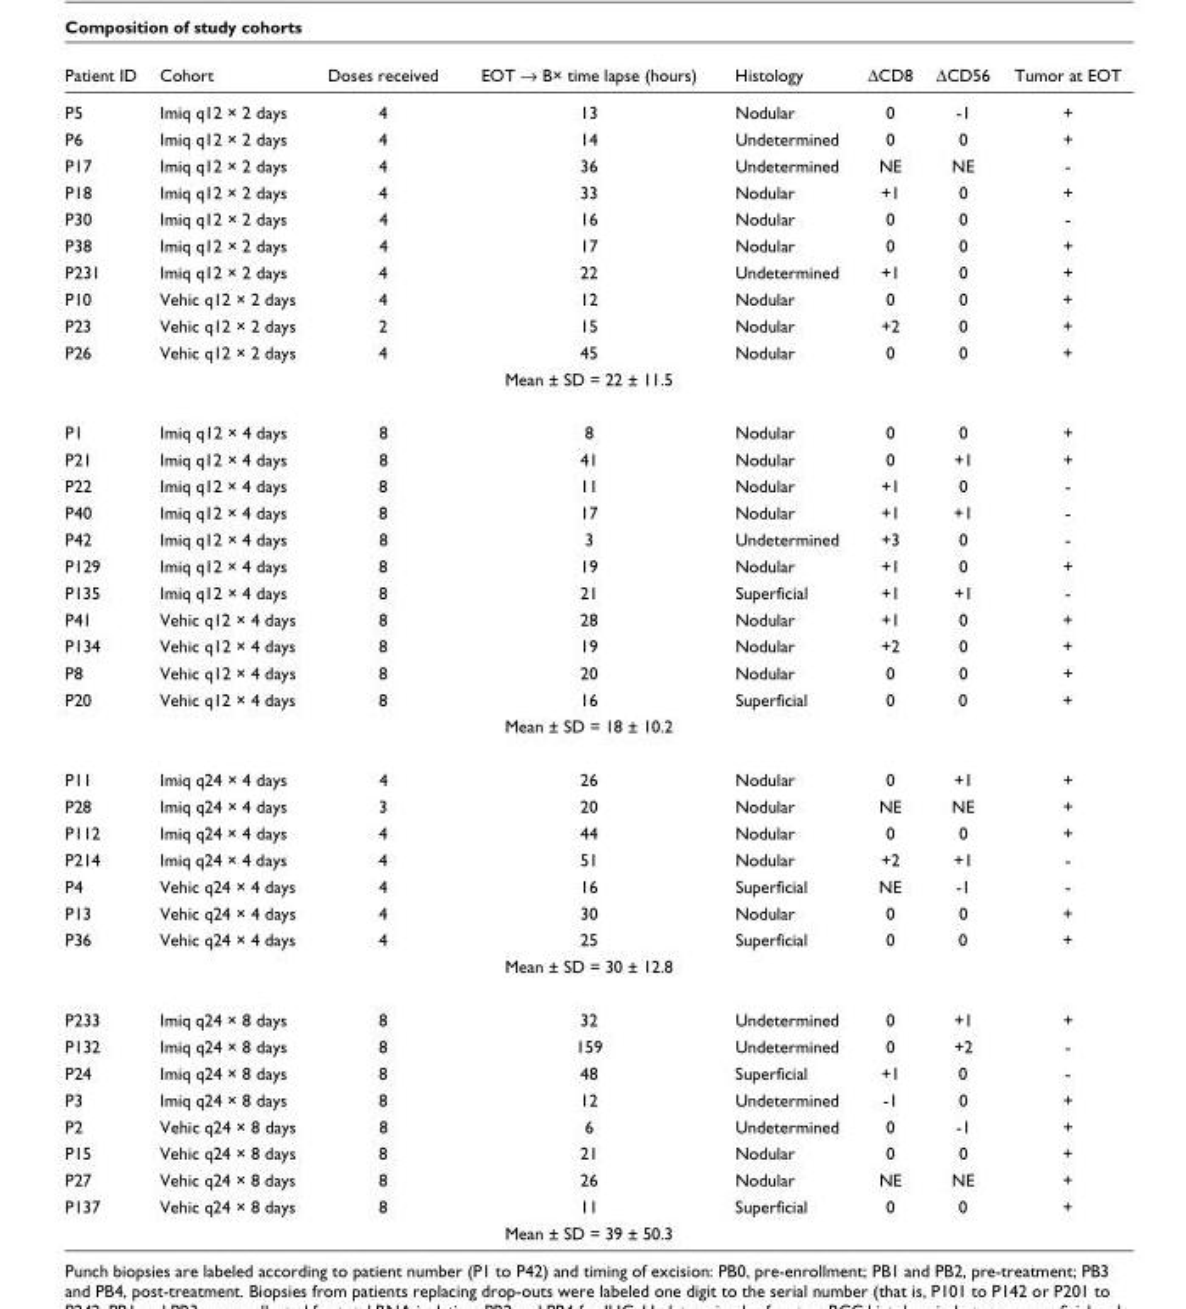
<table><thead><tr><td>Patient ID</td><td>Cohort</td><td>Doses received</td><td>EOT → B× time lapse (hours)</td><td>Histology</td><td>ΔCD8</td><td>ΔCD56</td><td>Tumor at EOT</td></tr></thead><tbody><tr><td>P5</td><td>Imiq q12 × 2 days</td><td>4</td><td>13</td><td>Nodular</td><td>0</td><td>-1</td><td>+</td></tr><tr><td>P6</td><td>Imiq q12 × 2 days</td><td>4</td><td>14</td><td>Undetermined</td><td>0</td><td>0</td><td>+</td></tr><tr><td>P17</td><td>Imiq q12 × 2 days</td><td>4</td><td>36</td><td>Undetermined</td><td>NE</td><td>NE</td><td>-</td></tr><tr><td>P18</td><td>Imiq q12 × 2 days</td><td>4</td><td>33</td><td>Nodular</td><td>+1</td><td>0</td><td>+</td></tr><tr><td>P30</td><td>Imiq q12 × 2 days</td><td>4</td><td>16</td><td>Nodular</td><td>0</td><td>0</td><td>-</td></tr><tr><td>P38</td><td>Imiq q12 × 2 days</td><td>4</td><td>17</td><td>Nodular</td><td>0</td><td>0</td><td>+</td></tr><tr><td>P231</td><td>Imiq q12 × 2 days</td><td>4</td><td>22</td><td>Undetermined</td><td>+1</td><td>0</td><td>+</td></tr><tr><td>P10</td><td>Vehic q12 × 2 days</td><td>4</td><td>12</td><td>Nodular</td><td>0</td><td>0</td><td>+</td></tr><tr><td>P23</td><td>Vehic q12 × 2 days</td><td>2</td><td>15</td><td>Nodular</td><td>+2</td><td>0</td><td>+</td></tr><tr><td rowspan="2">P26</td><td>Vehic q12 × 2 days</td><td>4</td><td>45</td><td>Nodular</td><td>0</td><td>0</td><td>+</td></tr><tr><td></td><td></td><td>Mean ± SD = 22 ± 11.5</td><td></td><td></td><td></td><td></td></tr><tr><td>P1</td><td>Imiq q12 × 4 days</td><td>8</td><td>8</td><td>Nodular</td><td>0</td><td>0</td><td>+</td></tr><tr><td>P21</td><td>Imiq q12 × 4 days</td><td>8</td><td>41</td><td>Nodular</td><td>0</td><td>+1</td><td>+</td></tr><tr><td>P22</td><td>Imiq q12 × 4 days</td><td>8</td><td>11</td><td>Nodular</td><td>+1</td><td>0</td><td>-</td></tr><tr><td>P40</td><td>Imiq q12 × 4 days</td><td>8</td><td>17</td><td>Nodular</td><td>+1</td><td>+1</td><td>-</td></tr><tr><td>P42</td><td>Imiq q12 × 4 days</td><td>8</td><td>3</td><td>Undetermined</td><td>+3</td><td>0</td><td>-</td></tr><tr><td>P129</td><td>Imiq q12 × 4 days</td><td>8</td><td>19</td><td>Nodular</td><td>+1</td><td>0</td><td>+</td></tr><tr><td>P135</td><td>Imiq q12 × 4 days</td><td>8</td><td>21</td><td>Superficial</td><td>+1</td><td>+1</td><td>-</td></tr><tr><td>P41</td><td>Vehic q12 × 4 days</td><td>8</td><td>28</td><td>Nodular</td><td>+1</td><td>0</td><td>+</td></tr><tr><td>P134</td><td>Vehic q12 × 4 days</td><td>8</td><td>19</td><td>Nodular</td><td>+2</td><td>0</td><td>+</td></tr><tr><td>P8</td><td>Vehic q12 × 4 days</td><td>8</td><td>20</td><td>Nodular</td><td>0</td><td>0</td><td>+</td></tr><tr><td rowspan="2">P20</td><td>Vehic q12 × 4 days</td><td>8</td><td>16</td><td>Superficial</td><td>0</td><td>0</td><td>+</td></tr><tr><td></td><td></td><td>Mean ± SD = 18 ± 10.2</td><td></td><td></td><td></td><td></td></tr><tr><td>P11</td><td>Imiq q24 × 4 days</td><td>4</td><td>26</td><td>Nodular</td><td>0</td><td>+1</td><td>+</td></tr><tr><td>P28</td><td>Imiq q24 × 4 days</td><td>3</td><td>20</td><td>Nodular</td><td>NE</td><td>NE</td><td>+</td></tr><tr><td>P112</td><td>Imiq q24 × 4 days</td><td>4</td><td>44</td><td>Nodular</td><td>0</td><td>0</td><td>+</td></tr><tr><td>P214</td><td>Imiq q24 × 4 days</td><td>4</td><td>51</td><td>Nodular</td><td>+2</td><td>+1</td><td>-</td></tr><tr><td>P4</td><td>Vehic q24 × 4 days</td><td>4</td><td>16</td><td>Superficial</td><td>NE</td><td>-1</td><td>-</td></tr><tr><td>P13</td><td>Vehic q24 × 4 days</td><td>4</td><td>30</td><td>Nodular</td><td>0</td><td>0</td><td>+</td></tr><tr><td rowspan="2">P36</td><td>Vehic q24 × 4 days</td><td>4</td><td>25</td><td>Superficial</td><td>0</td><td>0</td><td>+</td></tr><tr><td></td><td></td><td>Mean ± SD = 30 ± 12.8</td><td></td><td></td><td></td><td></td></tr><tr><td>P233</td><td>Imiq q24 × 8 days</td><td>8</td><td>32</td><td>Undetermined</td><td>0</td><td>+1</td><td>+</td></tr><tr><td>P132</td><td>Imiq q24 × 8 days</td><td>8</td><td>159</td><td>Undetermined</td><td>0</td><td>+2</td><td>-</td></tr><tr><td>P24</td><td>Imiq q24 × 8 days</td><td>8</td><td>48</td><td>Superficial</td><td>+1</td><td>0</td><td>-</td></tr><tr><td>P3</td><td>Imiq q24 × 8 days</td><td>8</td><td>12</td><td>Undetermined</td><td>-1</td><td>0</td><td>+</td></tr><tr><td>P2</td><td>Vehic q24 × 8 days</td><td>8</td><td>6</td><td>Undetermined</td><td>0</td><td>-1</td><td>+</td></tr><tr><td>P15</td><td>Vehic q24 × 8 days</td><td>8</td><td>21</td><td>Nodular</td><td>0</td><td>0</td><td>+</td></tr><tr><td>P27</td><td>Vehic q24 × 8 days</td><td>8</td><td>26</td><td>Nodular</td><td>NE</td><td>NE</td><td>+</td></tr><tr><td rowspan="2">P137</td><td>Vehic q24 × 8 days</td><td>8</td><td>11</td><td>Superficial</td><td>0</td><td>0</td><td>+</td></tr><tr><td></td><td></td><td>Mean ± SD = 39 ± 50.3</td><td></td><td></td><td></td><td></td></tr></tbody></table>